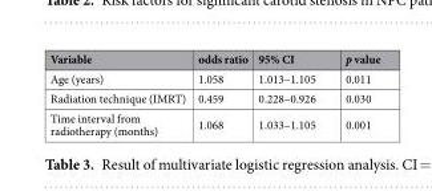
<table><thead><tr><td>Variable</td><td>odds ratio</td><td>95% CI</td><td>p value</td></tr></thead><tbody><tr><td>Age (years)</td><td>1.058</td><td>1.013–1.105</td><td>0.011</td></tr><tr><td>Radiation technique (IMRT)</td><td>0.459</td><td>0.228–0.926</td><td>0.030</td></tr><tr><td>Time interval from radiotherapy (months)</td><td>1.068</td><td>1.033–1.105</td><td>0.001</td></tr></tbody></table>